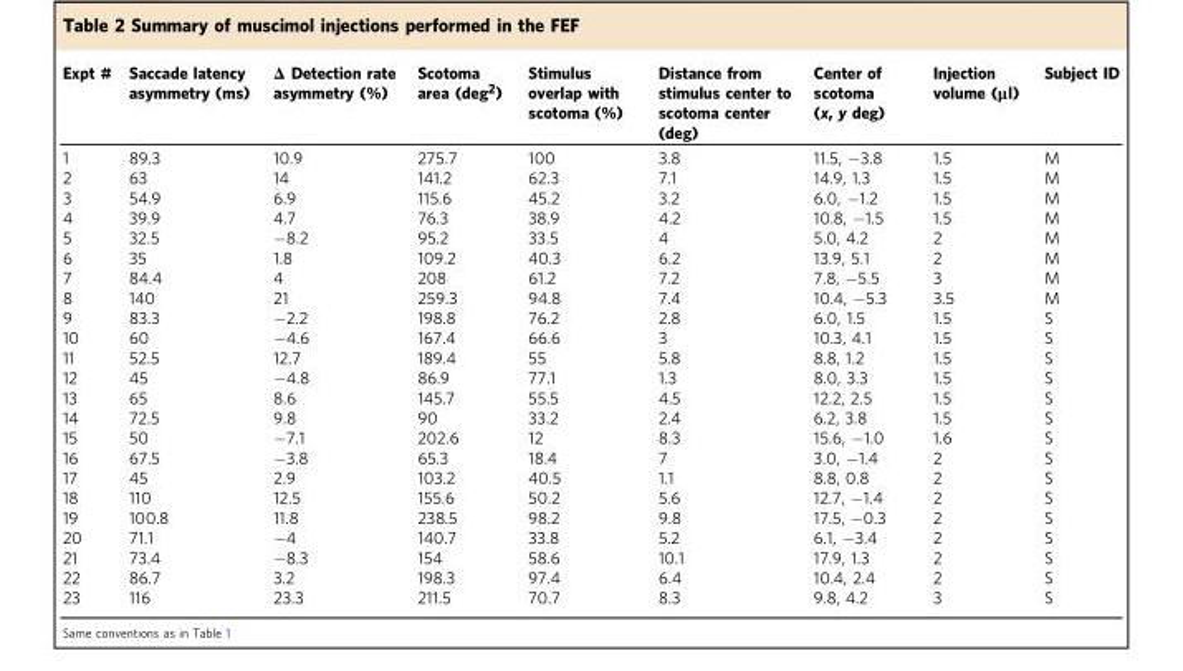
<table><thead><tr><td>Expt #</td><td>Saccade latency asymmetry (ms)</td><td>Δ Detection rate asymmetry (%)</td><td>Scotoma area (deg<sup>2</sup>)</td><td>Stimulus overlap with scotoma (%)</td><td>Distance from stimulus center to scotoma center (deg)</td><td>Center of scotoma (x, y deg)</td><td>Injection volume (μl)</td><td>Subject ID</td></tr></thead><tbody><tr><td>1</td><td>89.3</td><td>10.9</td><td>275.7</td><td>100</td><td>3.8</td><td>11.5, −3.8</td><td>1.5</td><td>M</td></tr><tr><td>2</td><td>63</td><td>14</td><td>141.2</td><td>62.3</td><td>7.1</td><td>14.9, 1.3</td><td>1.5</td><td>M</td></tr><tr><td>3</td><td>54.9</td><td>6.9</td><td>115.6</td><td>45.2</td><td>3.2</td><td>6.0, −1.2</td><td>1.5</td><td>M</td></tr><tr><td>4</td><td>39.9</td><td>4.7</td><td>76.3</td><td>38.9</td><td>4.2</td><td>10.8, −1.5</td><td>1.5</td><td>M</td></tr><tr><td>5</td><td>32.5</td><td>−8.2</td><td>95.2</td><td>33.5</td><td>4</td><td>5.0, 4.2</td><td>2</td><td>M</td></tr><tr><td>6</td><td>35</td><td>1.8</td><td>109.2</td><td>40.3</td><td>6.2</td><td>13.9, 5.1</td><td>2</td><td>M</td></tr><tr><td>7</td><td>84.4</td><td>4</td><td>208</td><td>61.2</td><td>7.2</td><td>7.8, −5.5</td><td>3</td><td>M</td></tr><tr><td>8</td><td>140</td><td>21</td><td>259.3</td><td>94.8</td><td>7.4</td><td>10.4, −5.3</td><td>3.5</td><td>M</td></tr><tr><td>9</td><td>83.3</td><td>−2.2</td><td>198.8</td><td>76.2</td><td>2.8</td><td>6.0, 1.5</td><td>1.5</td><td>S</td></tr><tr><td>10</td><td>60</td><td>−4.6</td><td>167.4</td><td>66.6</td><td>3</td><td>10.3, 4.1</td><td>1.5</td><td>S</td></tr><tr><td>11</td><td>52.5</td><td>12.7</td><td>189.4</td><td>55</td><td>5.8</td><td>8.8, 1.2</td><td>1.5</td><td>S</td></tr><tr><td>12</td><td>45</td><td>−4.8</td><td>86.9</td><td>77.1</td><td>1.3</td><td>8.0, 3.3</td><td>1.5</td><td>S</td></tr><tr><td>13</td><td>65</td><td>8.6</td><td>145.7</td><td>55.5</td><td>4.5</td><td>12.2, 2.5</td><td>1.5</td><td>S</td></tr><tr><td>14</td><td>72.5</td><td>9.8</td><td>90</td><td>33.2</td><td>2.4</td><td>6.2, 3.8</td><td>1.5</td><td>S</td></tr><tr><td>15</td><td>50</td><td>−7.1</td><td>202.6</td><td>12</td><td>8.3</td><td>15.6, −1.0</td><td>1.6</td><td>S</td></tr><tr><td>16</td><td>67.5</td><td>−3.8</td><td>65.3</td><td>18.4</td><td>7</td><td>3.0, −1.4</td><td>2</td><td>S</td></tr><tr><td>17</td><td>45</td><td>2.9</td><td>103.2</td><td>40.5</td><td>1.1</td><td>8.8, 0.8</td><td>2</td><td>S</td></tr><tr><td>18</td><td>110</td><td>12.5</td><td>155.6</td><td>50.2</td><td>5.6</td><td>12.7, −1.4</td><td>2</td><td>S</td></tr><tr><td>19</td><td>100.8</td><td>11.8</td><td>238.5</td><td>98.2</td><td>9.8</td><td>17.5, −0.3</td><td>2</td><td>S</td></tr><tr><td>20</td><td>71.1</td><td>−4</td><td>140.7</td><td>33.8</td><td>5.2</td><td>6.1, −3.4</td><td>2</td><td>S</td></tr><tr><td>21</td><td>73.4</td><td>−8.3</td><td>154</td><td>58.6</td><td>10.1</td><td>17.9, 1.3</td><td>2</td><td>S</td></tr><tr><td>22</td><td>86.7</td><td>3.2</td><td>198.3</td><td>97.4</td><td>6.4</td><td>10.4, 2.4</td><td>2</td><td>S</td></tr><tr><td>23</td><td>116</td><td>23.3</td><td>211.5</td><td>70.7</td><td>8.3</td><td>9.8, 4.2</td><td>3</td><td>S</td></tr></tbody></table>